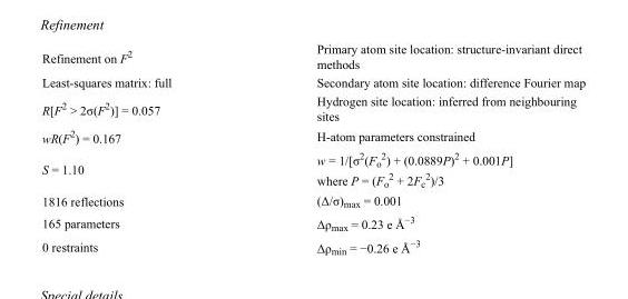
<table><tbody><tr><td>Refinement on F<sup>2</sup></td><td>Primary atom site location: structure-invariant direct methods</td></tr><tr><td>Least-squares matrix: full</td><td>Secondary atom site location: difference Fourier map</td></tr><tr><td>R[F<sup>2</sup> &gt; 2σ(F<sup>2</sup>)] = 0.057</td><td>Hydrogen site location: inferred from neighbouring sites</td></tr><tr><td>wR(F<sup>2</sup>) = 0.167</td><td>H-atom parameters constrained</td></tr><tr><td>S = 1.10</td><td>w = 1/[σ<sup>2</sup>(F<sub>o</sub> <sup>2</sup>) + (0.0889P)<sup>2</sup> + 0.001P] where P = (F<sub>o</sub> <sup>2</sup> + 2F<sub>c</sub> <sup>2</sup>)/3</td></tr><tr><td>1816 reflections</td><td>(Δ/σ)<sub>max</sub> = 0.001</td></tr><tr><td>165 parameters</td><td>Δρ<sub>max</sub> = 0.23 e Å<sup>−3</sup></td></tr><tr><td>0 restraints</td><td>Δρ<sub>min</sub> = −0.26 e Å<sup>−3</sup></td></tr></tbody></table>